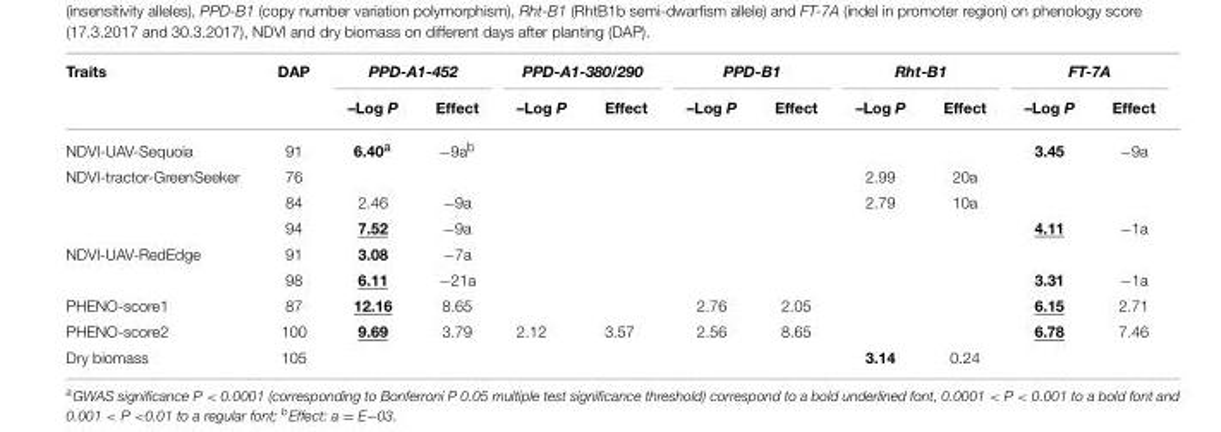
<table><thead><tr><td rowspan="2">Traits</td><td rowspan="2">DAP</td><td colspan="2">PPD-A1-452</td><td colspan="2">PPD-A1-380/290</td><td colspan="2">PPD-B1</td><td colspan="2">Rht-B1</td><td colspan="2">FT-7A</td></tr><tr><td>–Log P</td><td>Effect</td><td>–Log P</td><td>Effect</td><td>–Log P</td><td>Effect</td><td>–Log P</td><td>Effect</td><td>–Log P</td><td>Effect</td></tr></thead><tbody><tr><td>NDVI-UAV-Sequoia</td><td>91</td><td>6.40<sup>a</sup></td><td>−9a<sup>b</sup></td><td></td><td></td><td></td><td></td><td></td><td></td><td>3.45</td><td>−9a</td></tr><tr><td rowspan="3">NDVI-tractor-GreenSeeker</td><td>76</td><td></td><td></td><td></td><td></td><td></td><td></td><td>2.99</td><td>20a</td><td></td><td></td></tr><tr><td>84</td><td>2.46</td><td>−9a</td><td></td><td></td><td></td><td></td><td>2.79</td><td>10a</td><td></td><td></td></tr><tr><td>94</td><td>7.52</td><td>−9a</td><td></td><td></td><td></td><td></td><td></td><td></td><td>4.11</td><td>−1a</td></tr><tr><td rowspan="2">NDVI-UAV-RedEdge</td><td>91</td><td>3.08</td><td>−7a</td><td></td><td></td><td></td><td></td><td></td><td></td><td></td><td></td></tr><tr><td>98</td><td>6.11</td><td>−21a</td><td></td><td></td><td></td><td></td><td></td><td></td><td>3.31</td><td>−1a</td></tr><tr><td>PHENO-score1</td><td>87</td><td>12.16</td><td>8.65</td><td></td><td></td><td>2.76</td><td>2.05</td><td></td><td></td><td>6.15</td><td>2.71</td></tr><tr><td>PHENO-score2</td><td>100</td><td>9.69</td><td>3.79</td><td>2.12</td><td>3.57</td><td>2.56</td><td>8.65</td><td></td><td></td><td>6.78</td><td>7.46</td></tr><tr><td>Dry biomass</td><td>105</td><td></td><td></td><td></td><td></td><td></td><td></td><td>3.14</td><td>0.24</td><td></td><td></td></tr></tbody></table>